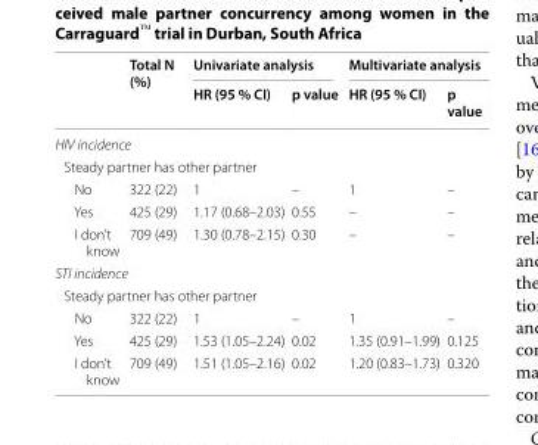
<table><thead><tr><td rowspan="2"></td><td rowspan="2">Total N (%)</td><td colspan="2">Univariate analysis</td><td colspan="2">Multivariate analysis</td></tr><tr><td>HR (95 % CI)</td><td>p value</td><td>HR (95 % CI)</td><td>p value</td></tr></thead><tbody><tr><td colspan="6">HIV incidence</td></tr><tr><td colspan="6">Steady partner has other partner</td></tr><tr><td>No</td><td>322 (22)</td><td>1</td><td>–</td><td>1</td><td>–</td></tr><tr><td>Yes</td><td>425 (29)</td><td>1.17 (0.68–2.03)</td><td>0.55</td><td>–</td><td>–</td></tr><tr><td>I don’t know</td><td>709 (49)</td><td>1.30 (0.78–2.15)</td><td>0.30</td><td>–</td><td>–</td></tr><tr><td colspan="6">STI incidence</td></tr><tr><td colspan="6">Steady partner has other partner</td></tr><tr><td>No</td><td>322 (22)</td><td>1</td><td>–</td><td>1</td><td>–</td></tr><tr><td>Yes</td><td>425 (29)</td><td>1.53 (1.05–2.24)</td><td>0.02</td><td>1.35 (0.91–1.99)</td><td>0.125</td></tr><tr><td>I don’t know</td><td>709 (49)</td><td>1.51 (1.05–2.16)</td><td>0.02</td><td>1.20 (0.83–1.73)</td><td>0.320</td></tr></tbody></table>